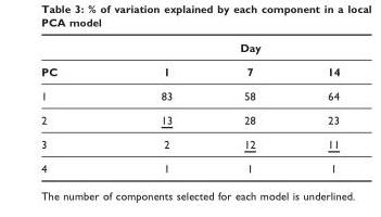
<table><thead><tr><td rowspan="2">PC</td><td colspan="3">Day</td></tr><tr><td>1</td><td>7</td><td>14</td></tr></thead><tbody><tr><td>1</td><td>83</td><td>58</td><td>64</td></tr><tr><td>2</td><td>13</td><td>28</td><td>23</td></tr><tr><td>3</td><td>2</td><td>12</td><td>11</td></tr><tr><td>4</td><td>1</td><td>1</td><td>1</td></tr></tbody></table>